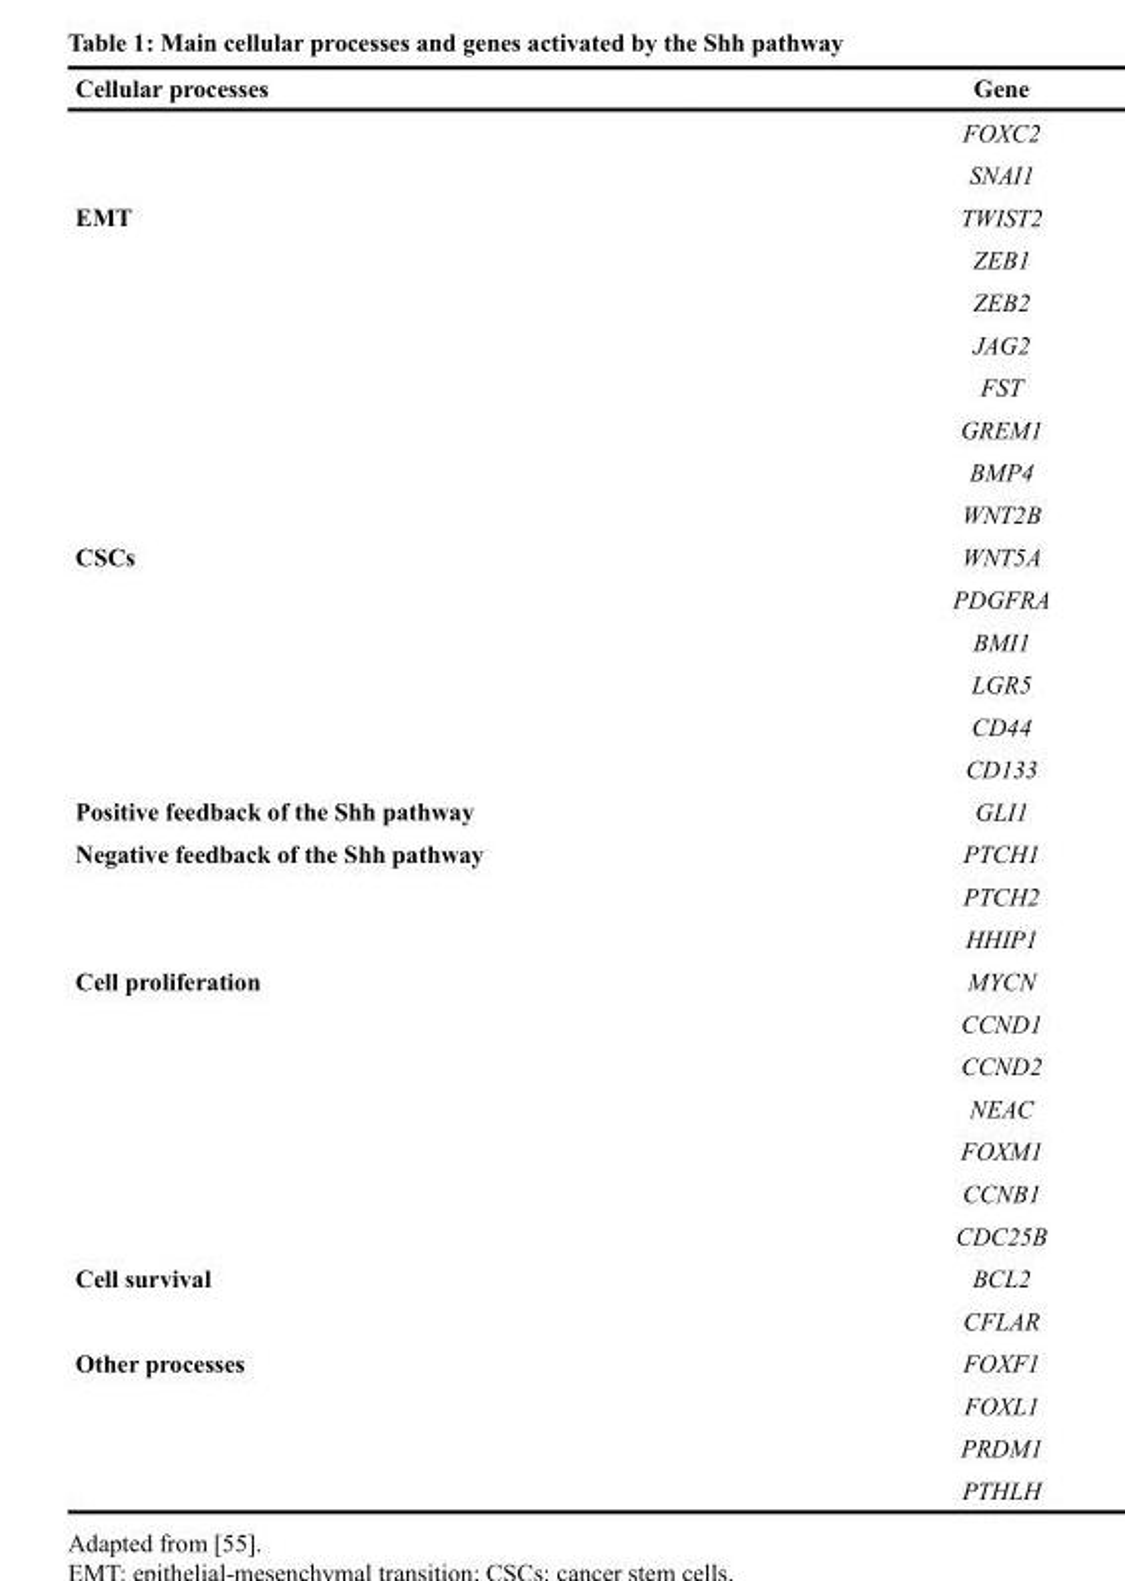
<table><thead><tr><td>Cellular processes</td><td>Gene</td></tr></thead><tbody><tr><td></td><td>FOXC2</td></tr><tr><td></td><td>SNAI1</td></tr><tr><td rowspan="8">EMT</td><td>TWIST2</td></tr><tr><td>ZEB1</td></tr><tr><td>ZEB2</td></tr><tr><td>JAG2</td></tr><tr><td>FST</td></tr><tr><td>GREM1</td></tr><tr><td>BMP4</td></tr><tr><td>WNT2B</td></tr><tr><td rowspan="6">CSCs</td><td>WNT5A</td></tr><tr><td>PDGFRA</td></tr><tr><td>BMI1</td></tr><tr><td>LGR5</td></tr><tr><td>CD44</td></tr><tr><td>CD133</td></tr><tr><td>Positive feedback of the Shh pathway</td><td>GLI1</td></tr><tr><td rowspan="3">Negative feedback of the Shh pathway</td><td>PTCH1</td></tr><tr><td>PTCH2</td></tr><tr><td>HHIP1</td></tr><tr><td rowspan="7">Cell proliferation</td><td>MYCN</td></tr><tr><td>CCND1</td></tr><tr><td>CCND2</td></tr><tr><td>NEAC</td></tr><tr><td>FOXM1</td></tr><tr><td>CCNB1</td></tr><tr><td>CDC25B</td></tr><tr><td rowspan="2">Cell survival</td><td>BCL2</td></tr><tr><td>CFLAR</td></tr><tr><td rowspan="4">Other processes</td><td>FOXF1</td></tr><tr><td>FOXL1</td></tr><tr><td>PRDM1</td></tr><tr><td>PTHLH</td></tr></tbody></table>